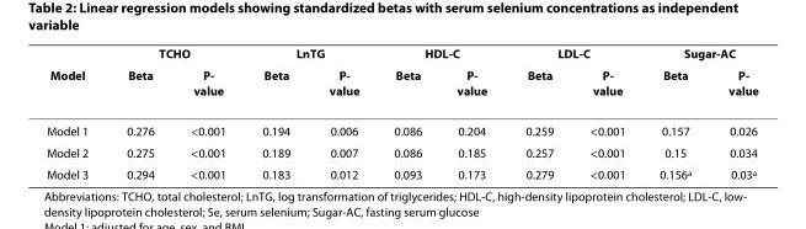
<table><thead><tr><td rowspan="2">Model</td><td colspan="2">TCHO</td><td colspan="2">LnTG</td><td colspan="2">HDL-C</td><td colspan="2">LDL-C</td><td colspan="2">Sugar-AC</td></tr><tr><td>Beta</td><td>P- value</td><td>Beta</td><td>P- value</td><td>Beta</td><td>P- value</td><td>Beta</td><td>P- value</td><td>Beta</td><td>P- value</td></tr></thead><tbody><tr><td>Model 1</td><td>0.276</td><td>&lt;0.001</td><td>0.194</td><td>0.006</td><td>0.086</td><td>0.204</td><td>0.259</td><td>&lt;0.001</td><td>0.157</td><td>0.026</td></tr><tr><td>Model 2</td><td>0.275</td><td>&lt;0.001</td><td>0.189</td><td>0.007</td><td>0.086</td><td>0.185</td><td>0.257</td><td>&lt;0.001</td><td>0.15</td><td>0.034</td></tr><tr><td>Model 3</td><td>0.294</td><td>&lt;0.001</td><td>0.183</td><td>0.012</td><td>0.093</td><td>0.173</td><td>0.279</td><td>&lt;0.001</td><td>0.156<sup>a</sup></td><td>0.03<sup>a</sup></td></tr></tbody></table>